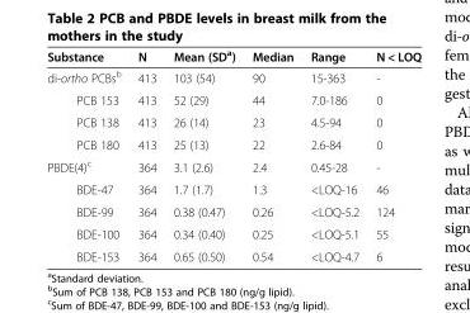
<table><thead><tr><td>Substance</td><td>N</td><td>Mean (SD<sup>a</sup>)</td><td>Median</td><td>Range</td><td>N &lt; LOQ</td></tr></thead><tbody><tr><td>di-ortho PCBs<sup>b</sup></td><td>413</td><td>103 (54)</td><td>90</td><td>15-363</td><td>-</td></tr><tr><td>PCB 153</td><td>413</td><td>52 (29)</td><td>44</td><td>7.0-186</td><td>0</td></tr><tr><td>PCB 138</td><td>413</td><td>26 (14)</td><td>23</td><td>4.5-94</td><td>0</td></tr><tr><td>PCB 180</td><td>413</td><td>25 (13)</td><td>22</td><td>2.6-84</td><td>0</td></tr><tr><td>PBDE(4)<sup>c</sup></td><td>364</td><td>3.1 (2.6)</td><td>2.4</td><td>0.45-28</td><td>-</td></tr><tr><td>BDE-47</td><td>364</td><td>1.7 (1.7)</td><td>1.3</td><td>&lt;LOQ-16</td><td>46</td></tr><tr><td>BDE-99</td><td>364</td><td>0.38 (0.47)</td><td>0.26</td><td>&lt;LOQ-5.2</td><td>124</td></tr><tr><td>BDE-100</td><td>364</td><td>0.34 (0.40)</td><td>0.25</td><td>&lt;LOQ-5.1</td><td>55</td></tr><tr><td>BDE-153</td><td>364</td><td>0.65 (0.50)</td><td>0.54</td><td>&lt;LOQ-4.7</td><td>6</td></tr></tbody></table>